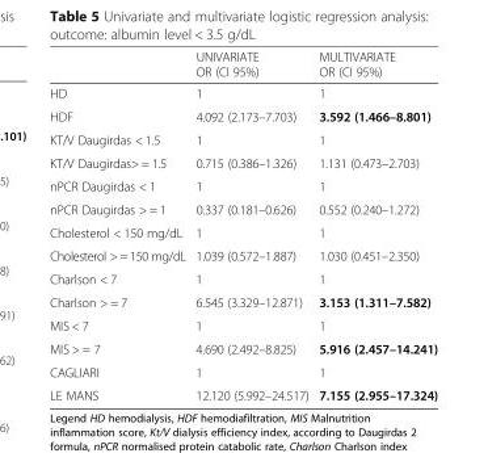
<table><thead><tr><td></td><td>UNIVARIATE OR (CI 95%)</td><td>MULTIVARIATE OR (CI 95%)</td></tr></thead><tbody><tr><td>HD</td><td>1</td><td>1</td></tr><tr><td>HDF</td><td>4.092 (2.173–7.703)</td><td>3.592 (1.466–8.801)</td></tr><tr><td>KT/V Daugirdas &lt; 1.5</td><td>1</td><td>1</td></tr><tr><td>KT/V Daugirdas&gt; = 1.5</td><td>0.715 (0.386–1.326)</td><td>1.131 (0.473–2.703)</td></tr><tr><td>nPCR Daugirdas &lt; 1</td><td>1</td><td>1</td></tr><tr><td>nPCR Daugirdas &gt; = 1</td><td>0.337 (0.181–0.626)</td><td>0.552 (0.240–1.272)</td></tr><tr><td>Cholesterol &lt; 150 mg/dL</td><td>1</td><td>1</td></tr><tr><td>Cholesterol &gt; = 150 mg/dL</td><td>1.039 (0.572–1.887)</td><td>1.030 (0.451–2.350)</td></tr><tr><td>Charlson &lt; 7</td><td>1</td><td>1</td></tr><tr><td>Charlson &gt; = 7</td><td>6.545 (3.329–12.871)</td><td>3.153 (1.311–7.582)</td></tr><tr><td>MIS &lt; 7</td><td>1</td><td>1</td></tr><tr><td>MIS &gt; = 7</td><td>4.690 (2.492–8.825)</td><td>5.916 (2.457–14.241)</td></tr><tr><td>CAGLIARI</td><td>1</td><td>1</td></tr><tr><td>LE MANS</td><td>12.120 (5.992–24.517)</td><td>7.155 (2.955–17.324)</td></tr></tbody></table>